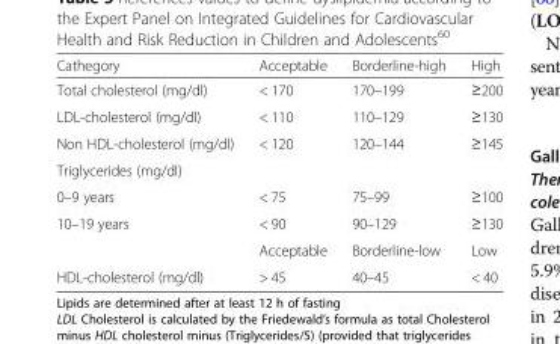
<table><thead><tr><td>Cathegory</td><td>Acceptable</td><td>Borderline-high</td><td>High</td></tr></thead><tbody><tr><td>Total cholesterol (mg/dl)</td><td>&lt; 170</td><td>170–199</td><td>≥200</td></tr><tr><td>LDL-cholesterol (mg/dl)</td><td>&lt; 110</td><td>110–129</td><td>≥130</td></tr><tr><td>Non HDL-cholesterol (mg/dl)</td><td>&lt; 120</td><td>120–144</td><td>≥145</td></tr><tr><td colspan="4">Triglycerides (mg/dl)</td></tr><tr><td>0–9 years</td><td>&lt; 75</td><td>75–99</td><td>≥100</td></tr><tr><td rowspan="2">10–19 years</td><td>&lt; 90</td><td>90–129</td><td>≥130</td></tr><tr><td>Acceptable</td><td>Borderline-low</td><td>Low</td></tr><tr><td>HDL-cholesterol (mg/dl)</td><td>&gt; 45</td><td>40–45</td><td>&lt; 40</td></tr></tbody></table>